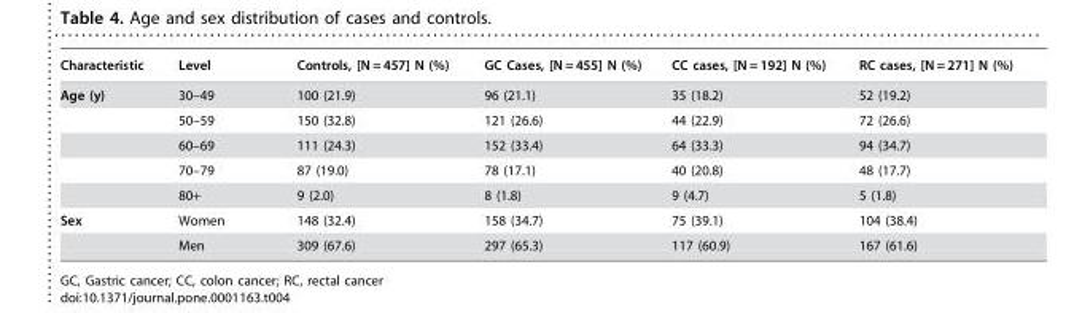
<table><thead><tr><td>Characteristic</td><td>Level</td><td>Controls, [N = 457] N (%)</td><td>GC Cases, [N = 455] N (%)</td><td>CC cases, [N = 192] N (%)</td><td>RC cases, [N = 271] N (%)</td></tr></thead><tbody><tr><td rowspan="5">Age (y)</td><td>30–49</td><td>100 (21.9)</td><td>96 (21.1)</td><td>35 (18.2)</td><td>52 (19.2)</td></tr><tr><td>50–59</td><td>150 (32.8)</td><td>121 (26.6)</td><td>44 (22.9)</td><td>72 (26.6)</td></tr><tr><td>60–69</td><td>111 (24.3)</td><td>152 (33.4)</td><td>64 (33.3)</td><td>94 (34.7)</td></tr><tr><td>70–79</td><td>87 (19.0)</td><td>78 (17.1)</td><td>40 (20.8)</td><td>48 (17.7)</td></tr><tr><td>80+</td><td>9 (2.0)</td><td>8 (1.8)</td><td>9 (4.7)</td><td>5 (1.8)</td></tr><tr><td rowspan="2">Sex</td><td>Women</td><td>148 (32.4)</td><td>158 (34.7)</td><td>75 (39.1)</td><td>104 (38.4)</td></tr><tr><td>Men</td><td>309 (67.6)</td><td>297 (65.3)</td><td>117 (60.9)</td><td>167 (61.6)</td></tr></tbody></table>